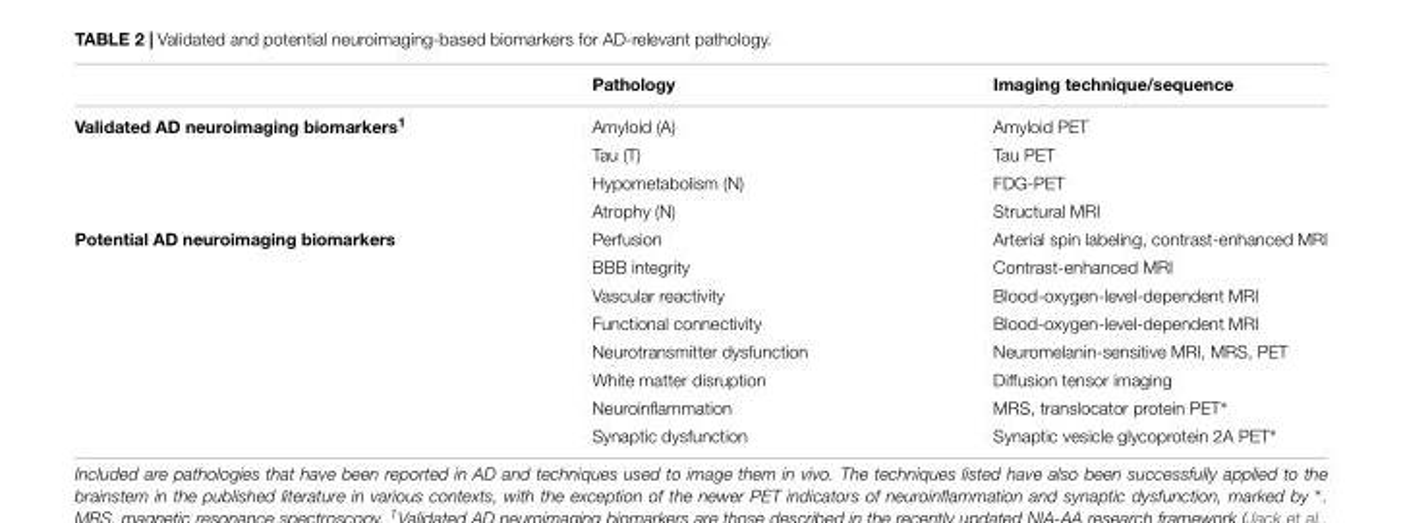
<table><thead><tr><td></td><td>Pathology</td><td>Imaging technique/sequence</td></tr></thead><tbody><tr><td rowspan="4">Validated AD neuroimaging biomarkers<sup>1</sup></td><td>Amyloid (A)</td><td>Amyloid PET</td></tr><tr><td>Tau (T)</td><td>Tau PET</td></tr><tr><td>Hypometabolism (N)</td><td>FDG-PET</td></tr><tr><td>Atrophy (N)</td><td>Structural MRI</td></tr><tr><td rowspan="8">Potential AD neuroimaging biomarkers</td><td>Perfusion</td><td>Arterial spin labeling, contrast-enhanced MRI</td></tr><tr><td>BBB integrity</td><td>Contrast-enhanced MRI</td></tr><tr><td>Vascular reactivity</td><td>Blood-oxygen-level-dependent MRI</td></tr><tr><td>Functional connectivity</td><td>Blood-oxygen-level-dependent MRI</td></tr><tr><td>Neurotransmitter dysfunction</td><td>Neuromelanin-sensitive MRI, MRS, PET</td></tr><tr><td>White matter disruption</td><td>Diffusion tensor imaging</td></tr><tr><td>Neuroinflammation</td><td>MRS, translocator protein PET∗</td></tr><tr><td>Synaptic dysfunction</td><td>Synaptic vesicle glycoprotein 2A PET∗</td></tr></tbody></table>